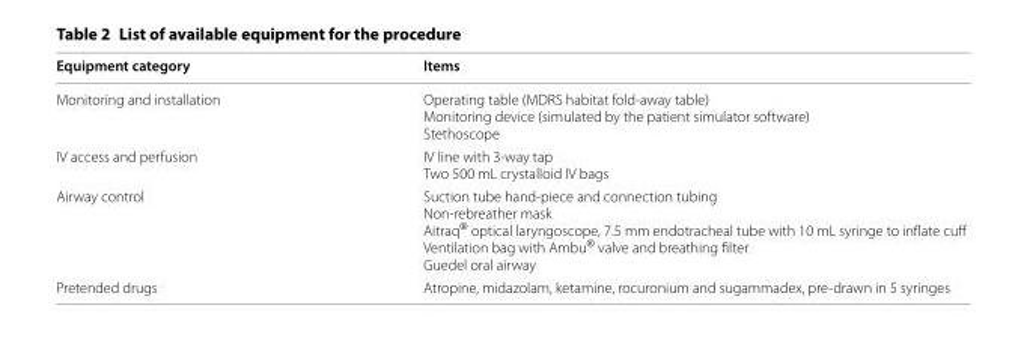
<table><thead><tr><td>Equipment category</td><td>Items</td></tr></thead><tbody><tr><td>Monitoring and installation</td><td>Operating table (MDRS habitat fold-away table) Monitoring device (simulated by the patient simulator software) Stethoscope</td></tr><tr><td>IV access and perfusion</td><td>IV line with 3-way tap Two 500 mL crystalloid IV bags</td></tr><tr><td>Airway control</td><td>Suction tube hand-piece and connection tubing Non-rebreather mask Aitraq<sup>®</sup> optical laryngoscope, 7.5 mm endotracheal tube with 10 mL syringe to inflate cuff Ventilation bag with Ambu<sup>®</sup> valve and breathing filter Guedel oral airway</td></tr><tr><td>Pretended drugs</td><td>Atropine, midazolam, ketamine, rocuronium and sugammadex, pre-drawn in 5 syringes</td></tr></tbody></table>